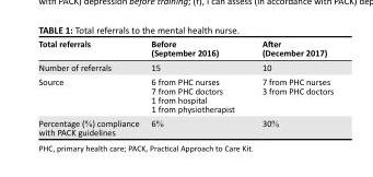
<table><thead><tr><td>Total referrals</td><td>Before (September 2016)</td><td>After (December 2017)</td></tr></thead><tbody><tr><td>Number of referrals</td><td>15</td><td>10</td></tr><tr><td>Source</td><td>6 from PHC nurses 7 from PHC doctors 1 from hospital 1 from physiotherapist</td><td>7 from PHC nurses 3 from PHC doctors</td></tr><tr><td>Percentage (%) compliance with PACK guidelines</td><td>6%</td><td>30%</td></tr></tbody></table>